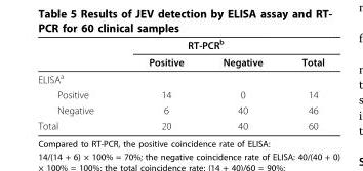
<table><thead><tr><td rowspan="2"></td><td colspan="2">RT-PCR<sup>b</sup></td><td rowspan="2">Total</td></tr><tr><td>Positive</td><td>Negative</td></tr></thead><tbody><tr><td colspan="4">ELISA<sup>a</sup></td></tr><tr><td>Positive</td><td>14</td><td>0</td><td>14</td></tr><tr><td>Negative</td><td>6</td><td>40</td><td>46</td></tr><tr><td>Total</td><td>20</td><td>40</td><td>60</td></tr></tbody></table>